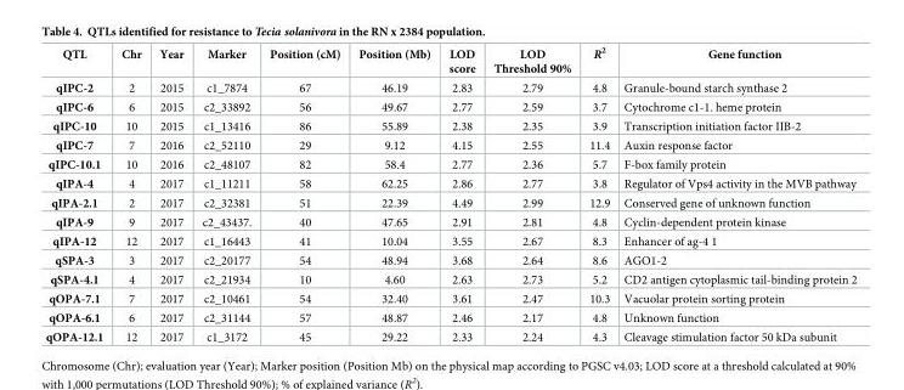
<table><thead><tr><td>QTL</td><td>Chr</td><td>Year</td><td>Marker</td><td>Position (cM)</td><td>Position (Mb)</td><td>LOD score</td><td>LOD Threshold 90%</td><td>R<sup>2</sup></td><td>Gene function</td></tr></thead><tbody><tr><td>qIPC-2</td><td>2</td><td>2015</td><td>c1_7874</td><td>67</td><td>46.19</td><td>2.83</td><td>2.79</td><td>4.8</td><td>Granule-bound starch synthase 2</td></tr><tr><td>qIPC-6</td><td>6</td><td>2015</td><td>c2_33892</td><td>56</td><td>49.67</td><td>2.77</td><td>2.59</td><td>3.7</td><td>Cytochrome c1-1. heme protein</td></tr><tr><td>qIPC-10</td><td>10</td><td>2015</td><td>c1_13416</td><td>86</td><td>55.89</td><td>2.38</td><td>2.35</td><td>3.9</td><td>Transcription initiation factor IIB-2</td></tr><tr><td>qIPC-7</td><td>7</td><td>2016</td><td>c2_52110</td><td>29</td><td>9.12</td><td>4.15</td><td>2.55</td><td>11.4</td><td>Auxin response factor</td></tr><tr><td>qIPC-10.1</td><td>10</td><td>2016</td><td>c2_48107</td><td>82</td><td>58.4</td><td>2.77</td><td>2.36</td><td>5.7</td><td>F-box family protein</td></tr><tr><td>qIPA-4</td><td>4</td><td>2017</td><td>c1_11211</td><td>58</td><td>62.25</td><td>2.86</td><td>2.77</td><td>3.8</td><td>Regulator of Vps4 activity in the MVB pathway</td></tr><tr><td>qIPA-2.1</td><td>2</td><td>2017</td><td>c2_32381</td><td>51</td><td>22.39</td><td>4.49</td><td>2.99</td><td>12.9</td><td>Conserved gene of unknown function</td></tr><tr><td>qIPA-9</td><td>9</td><td>2017</td><td>c2_43437.</td><td>40</td><td>47.65</td><td>2.91</td><td>2.81</td><td>4.8</td><td>Cyclin-dependent protein kinase</td></tr><tr><td>qIPA-12</td><td>12</td><td>2017</td><td>c1_16443</td><td>41</td><td>10.04</td><td>3.55</td><td>2.67</td><td>8.3</td><td>Enhancer of ag-4 1</td></tr><tr><td>qSPA-3</td><td>3</td><td>2017</td><td>c2_20177</td><td>54</td><td>48.94</td><td>3.68</td><td>2.64</td><td>8.6</td><td>AGO1-2</td></tr><tr><td>qSPA-4.1</td><td>4</td><td>2017</td><td>c2_21934</td><td>10</td><td>4.60</td><td>2.63</td><td>2.73</td><td>5.2</td><td>CD2 antigen cytoplasmic tail-binding protein 2</td></tr><tr><td>qOPA-7.1</td><td>7</td><td>2017</td><td>c2_10461</td><td>54</td><td>32.40</td><td>3.61</td><td>2.47</td><td>10.3</td><td>Vacuolar protein sorting protein</td></tr><tr><td>qOPA-6.1</td><td>6</td><td>2017</td><td>c2_31144</td><td>57</td><td>48.87</td><td>2.46</td><td>2.17</td><td>4.8</td><td>Unknown function</td></tr><tr><td>qOPA-12.1</td><td>12</td><td>2017</td><td>c1_3172</td><td>45</td><td>29.22</td><td>2.33</td><td>2.24</td><td>4.3</td><td>Cleavage stimulation factor 50 kDa subunit</td></tr></tbody></table>